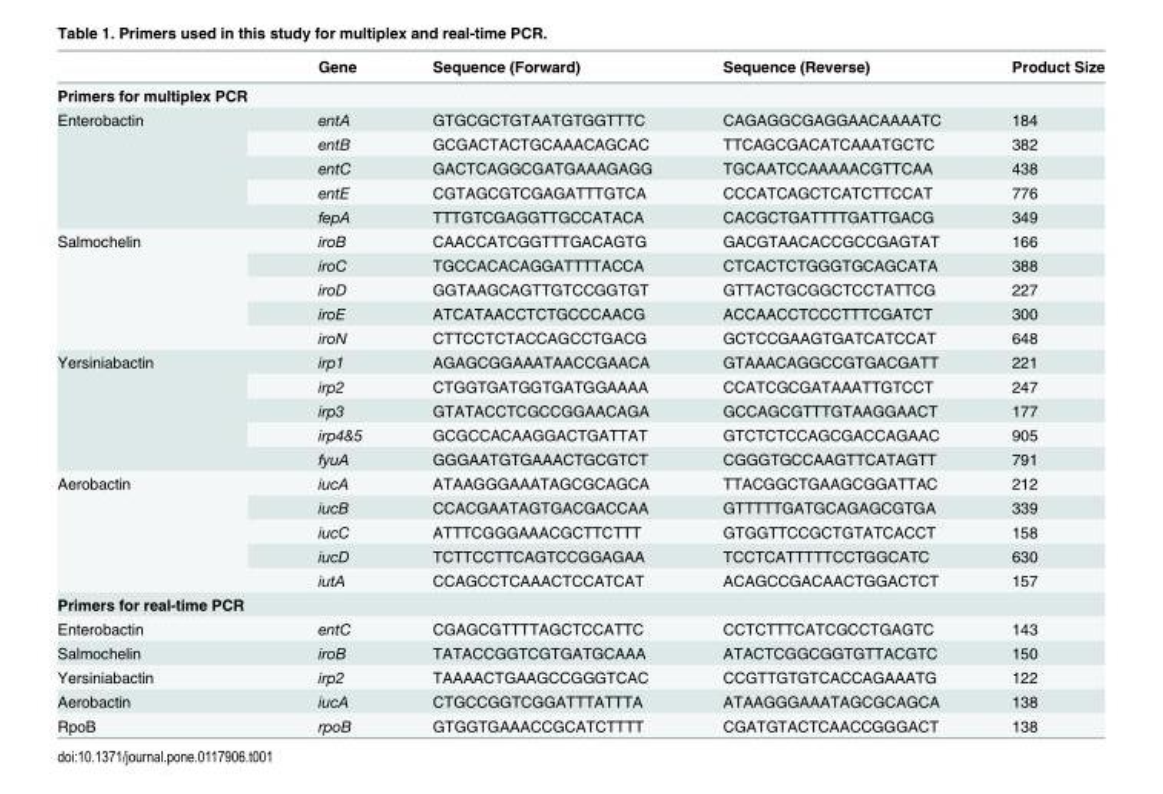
<table><thead><tr><td></td><td>Gene</td><td>Sequence (Forward)</td><td>Sequence (Reverse)</td><td>Product Size</td></tr></thead><tbody><tr><td colspan="5">Primers for multiplex PCR</td></tr><tr><td rowspan="5">Enterobactin</td><td>entA</td><td>GTGCGCTGTAATGTGGTTTC</td><td>CAGAGGCGAGGAACAAAATC</td><td>184</td></tr><tr><td>entB</td><td>GCGACTACTGCAAACAGCAC</td><td>TTCAGCGACATCAAATGCTC</td><td>382</td></tr><tr><td>entC</td><td>GACTCAGGCGATGAAAGAGG</td><td>TGCAATCCAAAAACGTTCAA</td><td>438</td></tr><tr><td>entE</td><td>CGTAGCGTCGAGATTTGTCA</td><td>CCCATCAGCTCATCTTCCAT</td><td>776</td></tr><tr><td>fepA</td><td>TTTGTCGAGGTTGCCATACA</td><td>CACGCTGATTTTGATTGACG</td><td>349</td></tr><tr><td rowspan="5">Salmochelin</td><td>iroB</td><td>CAACCATCGGTTTGACAGTG</td><td>GACGTAACACCGCCGAGTAT</td><td>166</td></tr><tr><td>iroC</td><td>TGCCACACAGGATTTTACCA</td><td>CTCACTCTGGGTGCAGCATA</td><td>388</td></tr><tr><td>iroD</td><td>GGTAAGCAGTTGTCCGGTGT</td><td>GTTACTGCGGCTCCTATTCG</td><td>227</td></tr><tr><td>iroE</td><td>ATCATAACCTCTGCCCAACG</td><td>ACCAACCTCCCTTTCGATCT</td><td>300</td></tr><tr><td>iroN</td><td>CTTCCTCTACCAGCCTGACG</td><td>GCTCCGAAGTGATCATCCAT</td><td>648</td></tr><tr><td rowspan="5">Yersiniabactin</td><td>irp1</td><td>AGAGCGGAAATAACCGAACA</td><td>GTAAACAGGCCGTGACGATT</td><td>221</td></tr><tr><td>irp2</td><td>CTGGTGATGGTGATGGAAAA</td><td>CCATCGCGATAAATTGTCCT</td><td>247</td></tr><tr><td>irp3</td><td>GTATACCTCGCCGGAACAGA</td><td>GCCAGCGTTTGTAAGGAACT</td><td>177</td></tr><tr><td>irp4&amp;5</td><td>GCGCCACAAGGACTGATTAT</td><td>GTCTCTCCAGCGACCAGAAC</td><td>905</td></tr><tr><td>fyuA</td><td>GGGAATGTGAAACTGCGTCT</td><td>CGGGTGCCAAGTTCATAGTT</td><td>791</td></tr><tr><td rowspan="5">Aerobactin</td><td>iucA</td><td>ATAAGGGAAATAGCGCAGCA</td><td>TTACGGCTGAAGCGGATTAC</td><td>212</td></tr><tr><td>iucB</td><td>CCACGAATAGTGACGACCAA</td><td>GTTTTTGATGCAGAGCGTGA</td><td>339</td></tr><tr><td>iucC</td><td>ATTTCGGGAAACGCTTCTTT</td><td>GTGGTTCCGCTGTATCACCT</td><td>158</td></tr><tr><td>iucD</td><td>TCTTCCTTCAGTCCGGAGAA</td><td>TCCTCATTTTTCCTGGCATC</td><td>630</td></tr><tr><td>iutA</td><td>CCAGCCTCAAACTCCATCAT</td><td>ACAGCCGACAACTGGACTCT</td><td>157</td></tr><tr><td colspan="5">Primers for real-time PCR</td></tr><tr><td>Enterobactin</td><td>entC</td><td>CGAGCGTTTTAGCTCCATTC</td><td>CCTCTTTCATCGCCTGAGTC</td><td>143</td></tr><tr><td>Salmochelin</td><td>iroB</td><td>TATACCGGTCGTGATGCAAA</td><td>ATACTCGGCGGTGTTACGTC</td><td>150</td></tr><tr><td>Yersiniabactin</td><td>irp2</td><td>TAAAACTGAAGCCGGGTCAC</td><td>CCGTTGTGTCACCAGAAATG</td><td>122</td></tr><tr><td>Aerobactin</td><td>iucA</td><td>CTGCCGGTCGGATTTATTTA</td><td>ATAAGGGAAATAGCGCAGCA</td><td>138</td></tr><tr><td>RpoB</td><td>rpoB</td><td>GTGGTGAAACCGCATCTTTT</td><td>CGATGTACTCAACCGGGACT</td><td>138</td></tr></tbody></table>